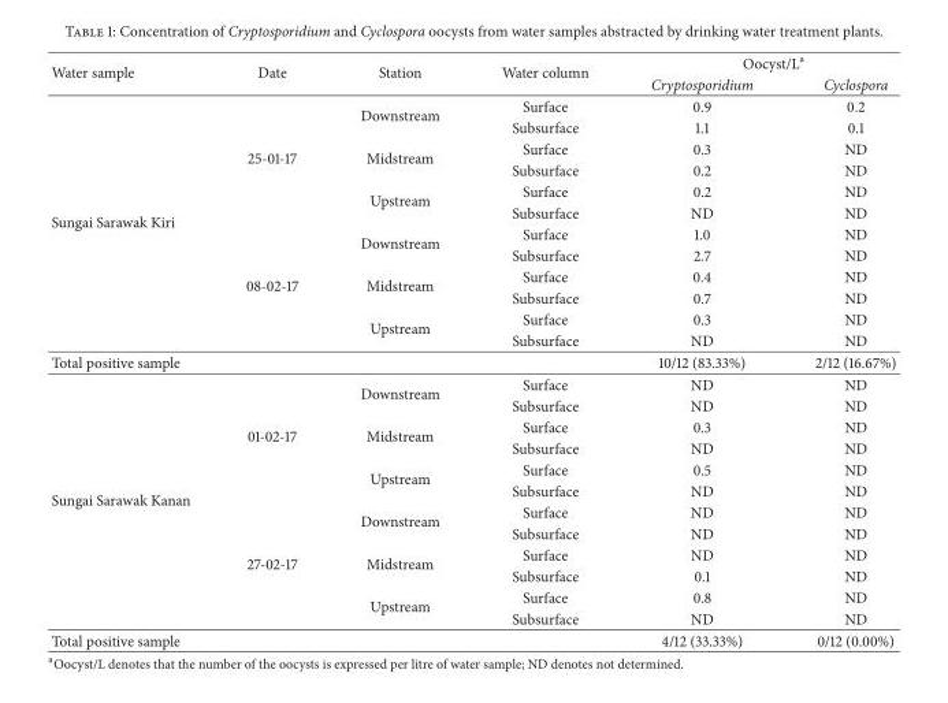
<table><thead><tr><td rowspan="2">Water sample</td><td rowspan="2">Date</td><td rowspan="2">Station</td><td rowspan="2">Water column</td><td colspan="2">Oocyst/L<sup>a</sup></td></tr><tr><td>Cryptosporidium</td><td>Cyclospora</td></tr></thead><tbody><tr><td rowspan="12">Sungai Sarawak Kiri</td><td rowspan="6">25-01-17</td><td rowspan="2">Downstream</td><td>Surface</td><td>0.9</td><td>0.2</td></tr><tr><td>Subsurface</td><td>1.1</td><td>0.1</td></tr><tr><td rowspan="2">Midstream</td><td>Surface</td><td>0.3</td><td>ND</td></tr><tr><td>Subsurface</td><td>0.2</td><td>ND</td></tr><tr><td rowspan="2">Upstream</td><td>Surface</td><td>0.2</td><td>ND</td></tr><tr><td>Subsurface</td><td>ND</td><td>ND</td></tr><tr><td rowspan="6">08-02-17</td><td rowspan="2">Downstream</td><td>Surface</td><td>1.0</td><td>ND</td></tr><tr><td>Subsurface</td><td>2.7</td><td>ND</td></tr><tr><td rowspan="2">Midstream</td><td>Surface</td><td>0.4</td><td>ND</td></tr><tr><td>Subsurface</td><td>0.7</td><td>ND</td></tr><tr><td rowspan="2">Upstream</td><td>Surface</td><td>0.3</td><td>ND</td></tr><tr><td>Subsurface</td><td>ND</td><td>ND</td></tr><tr><td colspan="3">Total positive sample</td><td></td><td>10/12 (83.33%)</td><td>2/12 (16.67%)</td></tr><tr><td rowspan="12">Sungai Sarawak Kanan</td><td rowspan="6">01-02-17</td><td rowspan="2">Downstream</td><td>Surface</td><td>ND</td><td>ND</td></tr><tr><td>Subsurface</td><td>ND</td><td>ND</td></tr><tr><td rowspan="2">Midstream</td><td>Surface</td><td>0.3</td><td>ND</td></tr><tr><td>Subsurface</td><td>ND</td><td>ND</td></tr><tr><td rowspan="2">Upstream</td><td>Surface</td><td>0.5</td><td>ND</td></tr><tr><td>Subsurface</td><td>ND</td><td>ND</td></tr><tr><td rowspan="6">27-02-17</td><td rowspan="2">Downstream</td><td>Surface</td><td>ND</td><td>ND</td></tr><tr><td>Subsurface</td><td>ND</td><td>ND</td></tr><tr><td rowspan="2">Midstream</td><td>Surface</td><td>ND</td><td>ND</td></tr><tr><td>Subsurface</td><td>0.1</td><td>ND</td></tr><tr><td rowspan="2">Upstream</td><td>Surface</td><td>0.8</td><td>ND</td></tr><tr><td>Subsurface</td><td>ND</td><td>ND</td></tr><tr><td colspan="3">Total positive sample</td><td></td><td>4/12 (33.33%)</td><td>0/12 (0.00%)</td></tr></tbody></table>